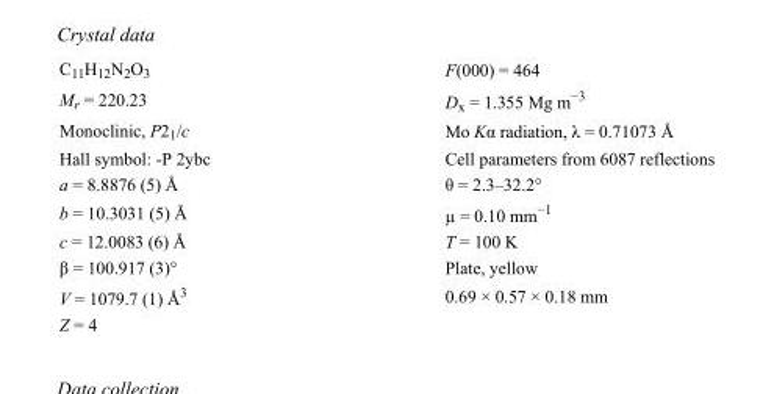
<table><tbody><tr><td>C<sub>11</sub>H<sub>12</sub>N<sub>2</sub>O<sub>3</sub></td><td>F(000) = 464</td></tr><tr><td>M<sub>r</sub> = 220.23</td><td>D<sub>x</sub> = 1.355 Mg m<sup>−3</sup></td></tr><tr><td>Monoclinic, P2<sub>1</sub>/c</td><td>Mo Kα radiation, λ = 0.71073 Å</td></tr><tr><td>Hall symbol: -P 2ybc</td><td>Cell parameters from 6087 reflections</td></tr><tr><td>a = 8.8876 (5) Å</td><td>θ = 2.3–32.2°</td></tr><tr><td>b = 10.3031 (5) Å</td><td>µ = 0.10 mm<sup>−1</sup></td></tr><tr><td>c = 12.0083 (6) Å</td><td>T = 100 K</td></tr><tr><td>β = 100.917 (3)°</td><td>Plate, yellow</td></tr><tr><td>V = 1079.7 (1) Å<sup>3</sup></td><td>0.69 × 0.57 × 0.18 mm</td></tr><tr><td>Z = 4</td><td></td></tr></tbody></table>